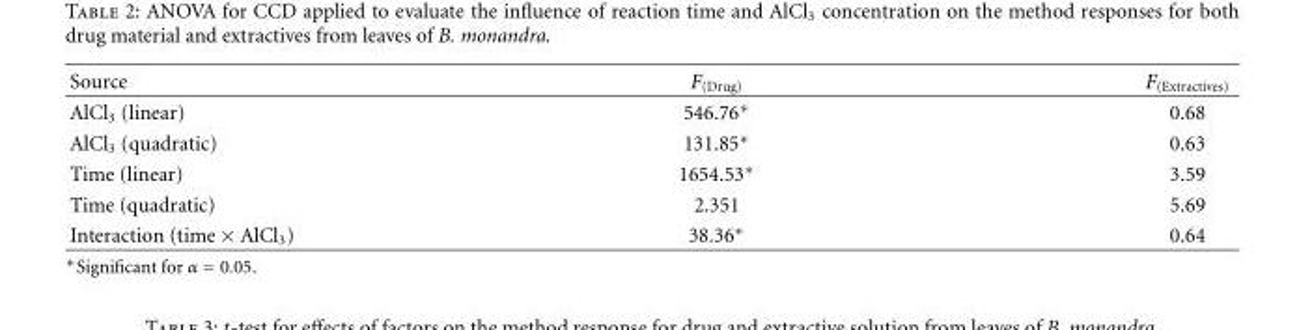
<table><thead><tr><td>Source</td><td>F<sub>(Drug)</sub></td><td>F<sub>(Extractives)</sub></td></tr></thead><tbody><tr><td>AlCl<sub>3</sub> (linear)</td><td>546.76∗</td><td>0.68</td></tr><tr><td>AlCl<sub>3</sub> (quadratic)</td><td>131.85∗</td><td>0.63</td></tr><tr><td>Time (linear)</td><td>1654.53∗</td><td>3.59</td></tr><tr><td>Time (quadratic)</td><td>2.351</td><td>5.69</td></tr><tr><td>Interaction (time × AlCl<sub>3</sub>)</td><td>38.36∗</td><td>0.64</td></tr></tbody></table>